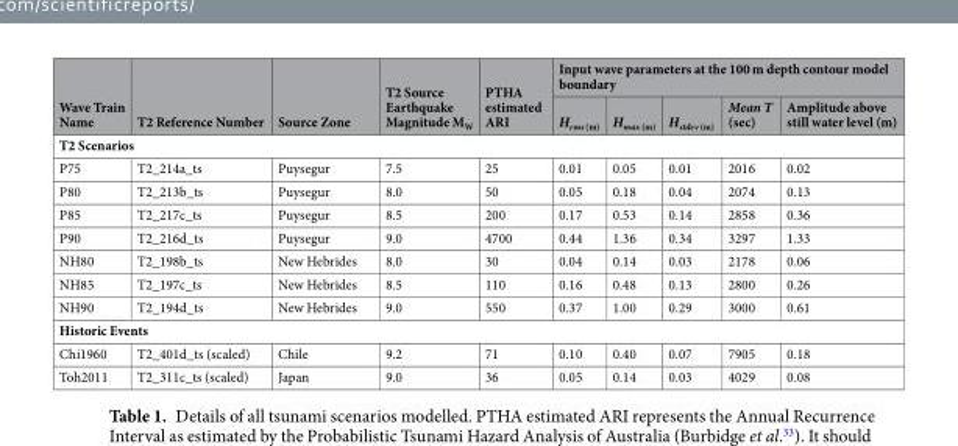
<table><thead><tr><td rowspan="2">Wave Train Name</td><td rowspan="2">T2 Reference Number</td><td rowspan="2">Source Zone</td><td rowspan="2">T2 Source Earthquake Magnitude M<sub>W</sub></td><td rowspan="2">PTHA estimated ARI</td><td colspan="5">Input wave parameters at the 100 m depth contour model boundary</td></tr><tr><td>H<sub>rms (m)</sub></td><td>H<sub>max (m)</sub></td><td>H<sub>stdev (m)</sub></td><td>Mean T (sec)</td><td>Amplitude above still water level (m)</td></tr></thead><tbody><tr><td colspan="10">T2 Scenarios</td></tr><tr><td>P75</td><td>T2_214a_ts</td><td>Puysegur</td><td>7.5</td><td>25</td><td>0.01</td><td>0.05</td><td>0.01</td><td>2016</td><td>0.02</td></tr><tr><td>P80</td><td>T2_213b_ts</td><td>Puysegur</td><td>8.0</td><td>50</td><td>0.05</td><td>0.18</td><td>0.04</td><td>2074</td><td>0.13</td></tr><tr><td>P85</td><td>T2_217c_ts</td><td>Puysegur</td><td>8.5</td><td>200</td><td>0.17</td><td>0.53</td><td>0.14</td><td>2858</td><td>0.36</td></tr><tr><td>P90</td><td>T2_216d_ts</td><td>Puysegur</td><td>9.0</td><td>4700</td><td>0.44</td><td>1.36</td><td>0.34</td><td>3297</td><td>1.33</td></tr><tr><td>NH80</td><td>T2_198b_ts</td><td>New Hebrides</td><td>8.0</td><td>30</td><td>0.04</td><td>0.14</td><td>0.03</td><td>2178</td><td>0.06</td></tr><tr><td>NH85</td><td>T2_197c_ts</td><td>New Hebrides</td><td>8.5</td><td>110</td><td>0.16</td><td>0.48</td><td>0.13</td><td>2800</td><td>0.26</td></tr><tr><td>NH90</td><td>T2_194d_ts</td><td>New Hebrides</td><td>9.0</td><td>550</td><td>0.37</td><td>1.00</td><td>0.29</td><td>3000</td><td>0.61</td></tr><tr><td colspan="10">Historic Events</td></tr><tr><td>Chi1960</td><td>T2_401d_ts (scaled)</td><td>Chile</td><td>9.2</td><td>71</td><td>0.10</td><td>0.40</td><td>0.07</td><td>7905</td><td>0.18</td></tr><tr><td>Toh2011</td><td>T2_311c_ts (scaled)</td><td>Japan</td><td>9.0</td><td>36</td><td>0.05</td><td>0.14</td><td>0.03</td><td>4029</td><td>0.08</td></tr></tbody></table>